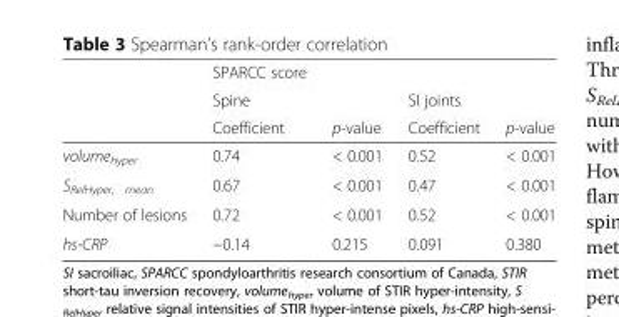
<table><thead><tr><td rowspan="3"></td><td rowspan="3">SPARCC score Spine Coefficient</td><td rowspan="3">p-value</td><td rowspan="3">SI joints Coefficient</td><td rowspan="3">p-value</td></tr><tr></tr><tr></tr></thead><tbody><tr><td>volume<sub>hyper</sub></td><td>0.74</td><td>&lt; 0.001</td><td>0.52</td><td>&lt; 0.001</td></tr><tr><td>S<sub>RelHyper, mean</sub></td><td>0.67</td><td>&lt; 0.001</td><td>0.47</td><td>&lt; 0.001</td></tr><tr><td>Number of lesions</td><td>0.72</td><td>&lt; 0.001</td><td>0.52</td><td>&lt; 0.001</td></tr><tr><td>hs-CRP</td><td>−0.14</td><td>0.215</td><td>0.091</td><td>0.380</td></tr></tbody></table>